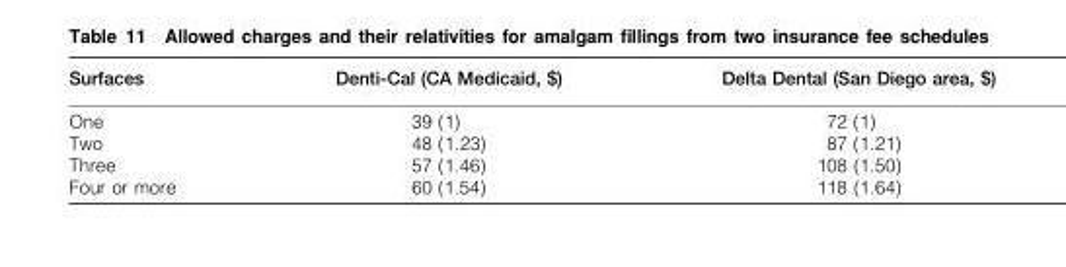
<table><thead><tr><td>Surfaces</td><td>Denti-Cal (CA Medicaid, $)</td><td>Delta Dental (San Diego area, $)</td></tr></thead><tbody><tr><td>One</td><td>39 (1)</td><td>72 (1)</td></tr><tr><td>Two</td><td>48 (1.23)</td><td>87 (1.21)</td></tr><tr><td>Three</td><td>57 (1.46)</td><td>108 (1.50)</td></tr><tr><td>Four or more</td><td>60 (1.54)</td><td>118 (1.64)</td></tr></tbody></table>